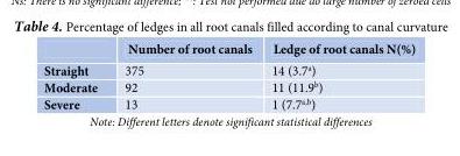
<table><thead><tr><td></td><td>Number of root canals</td><td>Ledge of root canals N(%)</td></tr></thead><tbody><tr><td>Straight</td><td>375</td><td>14 (3.7<sup>a</sup>)</td></tr><tr><td>Moderate</td><td>92</td><td>11 (11.9<sup>b</sup>)</td></tr><tr><td>Severe</td><td>13</td><td>1 (7.7<sup>a,b</sup>)</td></tr></tbody></table>